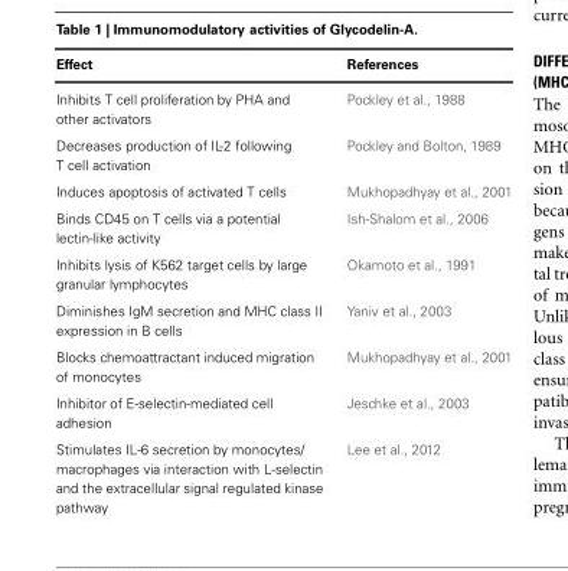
<table><thead><tr><td>Effect</td><td>References</td></tr></thead><tbody><tr><td>Inhibits T cell proliferation by PHA and other activators</td><td>Pockley et al., 1988</td></tr><tr><td>Decreases production of IL-2 following T cell activation</td><td>Pockley and Bolton, 1989</td></tr><tr><td>Induces apoptosis of activated T cells</td><td>Mukhopadhyay et al., 2001</td></tr><tr><td>Binds CD45 on T cells via a potential lectin-like activity</td><td>Ish-Shalom et al., 2006</td></tr><tr><td>Inhibits lysis of K562 target cells by large granular lymphocytes</td><td>Okamoto et al., 1991</td></tr><tr><td>Diminishes IgM secretion and MHC class II expression in B cells</td><td>Yaniv et al., 2003</td></tr><tr><td>Blocks chemoattractant induced migration of monocytes</td><td>Mukhopadhyay et al., 2001</td></tr><tr><td>Inhibitor of E-selectin-mediated cell adhesion</td><td>Jeschke et al., 2003</td></tr><tr><td>Stimulates IL-6 secretion by monocytes/ macrophages via interaction with L-selectin and the extracellular signal regulated kinase pathway</td><td>Lee et al., 2012</td></tr></tbody></table>